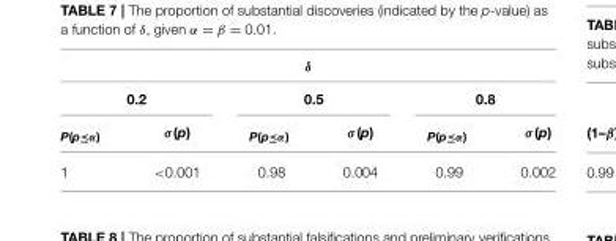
<table><thead><tr><td colspan="6">δ</td></tr><tr><td colspan="2">0.2</td><td colspan="2">0.5</td><td colspan="2">0.8</td></tr><tr><td><sub>P(p≤α)</sub></td><td>σ(p)</td><td><sub>P(p≤α)</sub></td><td>σ(p)</td><td><sub>P(p≤α)</sub></td><td>σ(p)</td></tr></thead><tbody><tr><td>1</td><td>&lt;0.001</td><td>0.98</td><td>0.004</td><td>0.99</td><td>0.002</td></tr></tbody></table>